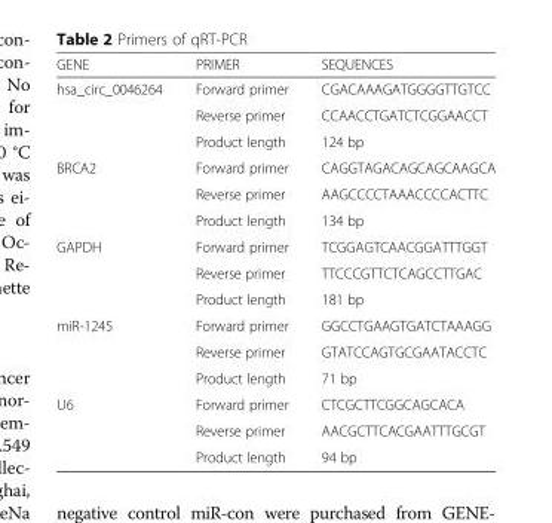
<table><thead><tr><td>GENE</td><td>PRIMER</td><td>SEQUENCES</td></tr></thead><tbody><tr><td rowspan="3">hsa_circ_0046264</td><td>Forward primer</td><td>CGACAAAGATGGGGTTGTCC</td></tr><tr><td>Reverse primer</td><td>CCAACCTGATCTCGGAACCT</td></tr><tr><td>Product length</td><td>124 bp</td></tr><tr><td rowspan="3">BRCA2</td><td>Forward primer</td><td>CAGGTAGACAGCAGCAAGCA</td></tr><tr><td>Reverse primer</td><td>AAGCCCCTAAACCCCACTTC</td></tr><tr><td>Product length</td><td>134 bp</td></tr><tr><td rowspan="3">GAPDH</td><td>Forward primer</td><td>TCGGAGTCAACGGATTTGGT</td></tr><tr><td>Reverse primer</td><td>TTCCCGTTCTCAGCCTTGAC</td></tr><tr><td>Product length</td><td>181 bp</td></tr><tr><td rowspan="3">miR-1245</td><td>Forward primer</td><td>GGCCTGAAGTGATCTAAAGG</td></tr><tr><td>Reverse primer</td><td>GTATCCAGTGCGAATACCTC</td></tr><tr><td>Product length</td><td>71 bp</td></tr><tr><td rowspan="3">U6</td><td>Forward primer</td><td>CTCGCTTCGGCAGCACA</td></tr><tr><td>Reverse primer</td><td>AACGCTTCACGAATTTGCGT</td></tr><tr><td>Product length</td><td>94 bp</td></tr></tbody></table>